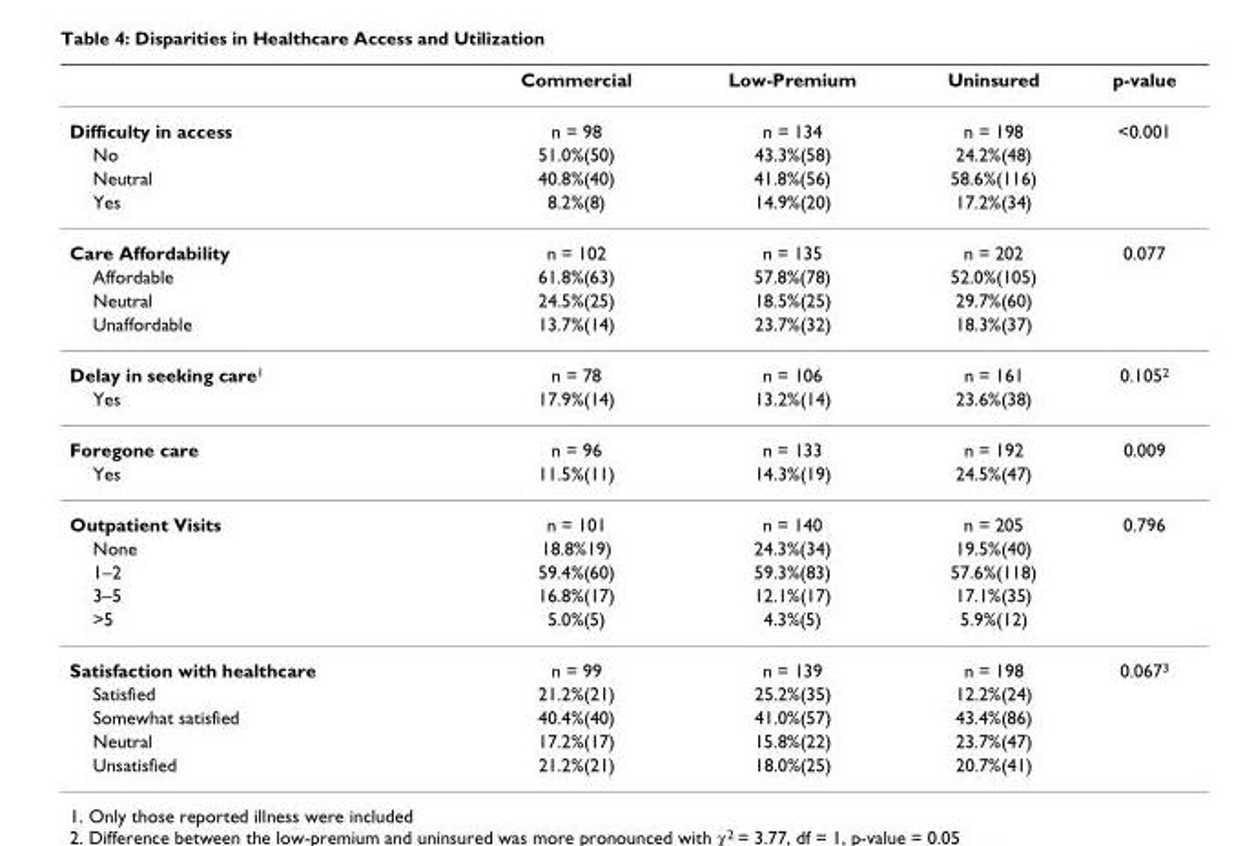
<table><thead><tr><td></td><td>Commercial</td><td>Low-Premium</td><td>Uninsured</td><td>p-value</td></tr></thead><tbody><tr><td>Difficulty in access</td><td>n = 98</td><td>n = 134</td><td>n = 198</td><td>&lt;0.001</td></tr><tr><td>No</td><td>51.0%(50)</td><td>43.3%(58)</td><td>24.2%(48)</td><td></td></tr><tr><td>Neutral</td><td>40.8%(40)</td><td>41.8%(56)</td><td>58.6%(116)</td><td></td></tr><tr><td>Yes</td><td>8.2%(8)</td><td>14.9%(20)</td><td>17.2%(34)</td><td></td></tr><tr><td>Care Affordability</td><td>n = 102</td><td>n = 135</td><td>n = 202</td><td>0.077</td></tr><tr><td>Affordable</td><td>61.8%(63)</td><td>57.8%(78)</td><td>52.0%(105)</td><td></td></tr><tr><td>Neutral</td><td>24.5%(25)</td><td>18.5%(25)</td><td>29.7%(60)</td><td></td></tr><tr><td>Unaffordable</td><td>13.7%(14)</td><td>23.7%(32)</td><td>18.3%(37)</td><td></td></tr><tr><td>Delay in seeking care<sup>1</sup></td><td>n = 78</td><td>n = 106</td><td>n = 161</td><td>0.105<sup>2</sup></td></tr><tr><td>Yes</td><td>17.9%(14)</td><td>13.2%(14)</td><td>23.6%(38)</td><td></td></tr><tr><td>Foregone care</td><td>n = 96</td><td>n = 133</td><td>n = 192</td><td>0.009</td></tr><tr><td>Yes</td><td>11.5%(11)</td><td>14.3%(19)</td><td>24.5%(47)</td><td></td></tr><tr><td>Outpatient Visits</td><td>n = 101</td><td>n = 140</td><td>n = 205</td><td>0.796</td></tr><tr><td>None</td><td>18.8%19)</td><td>24.3%(34)</td><td>19.5%(40)</td><td></td></tr><tr><td>1–2</td><td>59.4%(60)</td><td>59.3%(83)</td><td>57.6%(118)</td><td></td></tr><tr><td>3–5</td><td>16.8%(17)</td><td>12.1%(17)</td><td>17.1%(35)</td><td></td></tr><tr><td>&gt;5</td><td>5.0%(5)</td><td>4.3%(5)</td><td>5.9%(12)</td><td></td></tr><tr><td>Satisfaction with healthcare</td><td>n = 99</td><td>n = 139</td><td>n = 198</td><td>0.067<sup>3</sup></td></tr><tr><td>Satisfied</td><td>21.2%(21)</td><td>25.2%(35)</td><td>12.2%(24)</td><td></td></tr><tr><td>Somewhat satisfied</td><td>40.4%(40)</td><td>41.0%(57)</td><td>43.4%(86)</td><td></td></tr><tr><td>Neutral</td><td>17.2%(17)</td><td>15.8%(22)</td><td>23.7%(47)</td><td></td></tr><tr><td>Unsatisfied</td><td>21.2%(21)</td><td>18.0%(25)</td><td>20.7%(41)</td><td></td></tr></tbody></table>